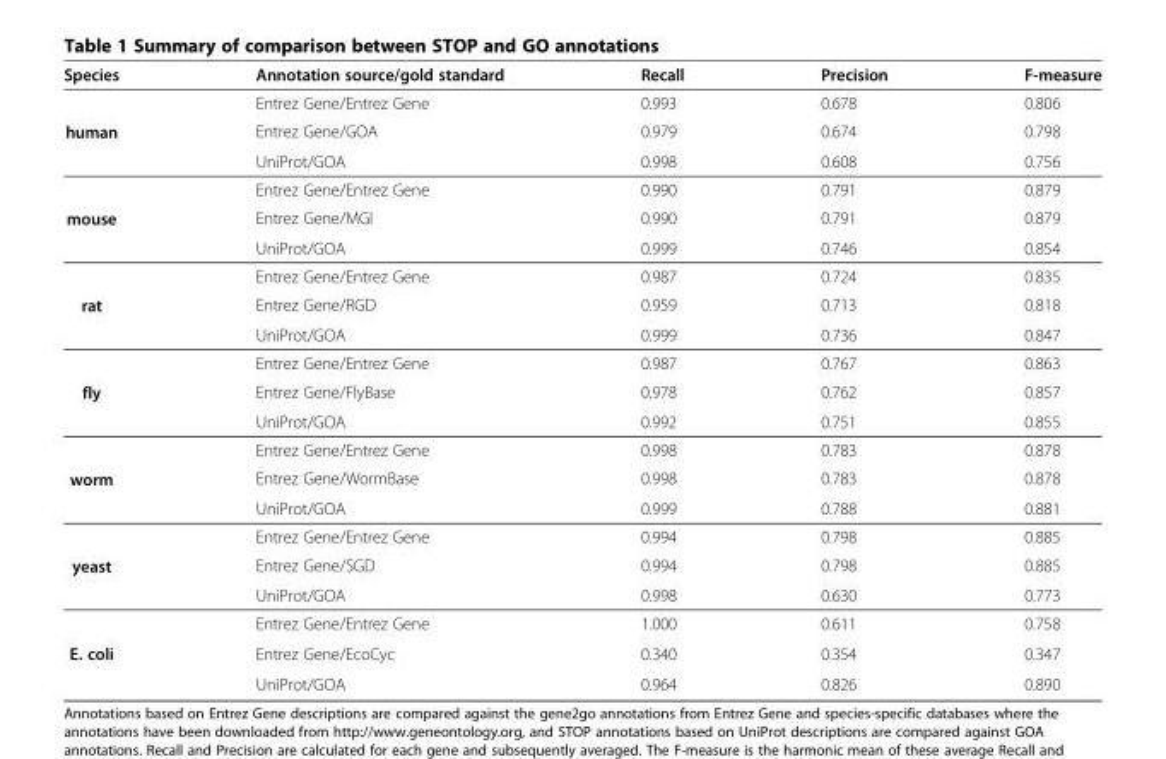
<table><thead><tr><td>Species</td><td>Annotation source/gold standard</td><td>Recall</td><td>Precision</td><td>F-measure</td></tr></thead><tbody><tr><td rowspan="3">human</td><td>Entrez Gene/Entrez Gene</td><td>0.993</td><td>0.678</td><td>0.806</td></tr><tr><td>Entrez Gene/GOA</td><td>0.979</td><td>0.674</td><td>0.798</td></tr><tr><td>UniProt/GOA</td><td>0.998</td><td>0.608</td><td>0.756</td></tr><tr><td rowspan="3">mouse</td><td>Entrez Gene/Entrez Gene</td><td>0.990</td><td>0.791</td><td>0.879</td></tr><tr><td>Entrez Gene/MGI</td><td>0.990</td><td>0.791</td><td>0.879</td></tr><tr><td>UniProt/GOA</td><td>0.999</td><td>0.746</td><td>0.854</td></tr><tr><td rowspan="3">rat</td><td>Entrez Gene/Entrez Gene</td><td>0.987</td><td>0.724</td><td>0.835</td></tr><tr><td>Entrez Gene/RGD</td><td>0.959</td><td>0.713</td><td>0.818</td></tr><tr><td>UniProt/GOA</td><td>0.999</td><td>0.736</td><td>0.847</td></tr><tr><td rowspan="3">fly</td><td>Entrez Gene/Entrez Gene</td><td>0.987</td><td>0.767</td><td>0.863</td></tr><tr><td>Entrez Gene/FlyBase</td><td>0.978</td><td>0.762</td><td>0.857</td></tr><tr><td>UniProt/GOA</td><td>0.992</td><td>0.751</td><td>0.855</td></tr><tr><td rowspan="3">worm</td><td>Entrez Gene/Entrez Gene</td><td>0.998</td><td>0.783</td><td>0.878</td></tr><tr><td>Entrez Gene/WormBase</td><td>0.998</td><td>0.783</td><td>0.878</td></tr><tr><td>UniProt/GOA</td><td>0.999</td><td>0.788</td><td>0.881</td></tr><tr><td rowspan="3">yeast</td><td>Entrez Gene/Entrez Gene</td><td>0.994</td><td>0.798</td><td>0.885</td></tr><tr><td>Entrez Gene/SGD</td><td>0.994</td><td>0.798</td><td>0.885</td></tr><tr><td>UniProt/GOA</td><td>0.998</td><td>0.630</td><td>0.773</td></tr><tr><td rowspan="3">E. coli</td><td>Entrez Gene/Entrez Gene</td><td>1.000</td><td>0.611</td><td>0.758</td></tr><tr><td>Entrez Gene/EcoCyc</td><td>0.340</td><td>0.354</td><td>0.347</td></tr><tr><td>UniProt/GOA</td><td>0.964</td><td>0.826</td><td>0.890</td></tr></tbody></table>